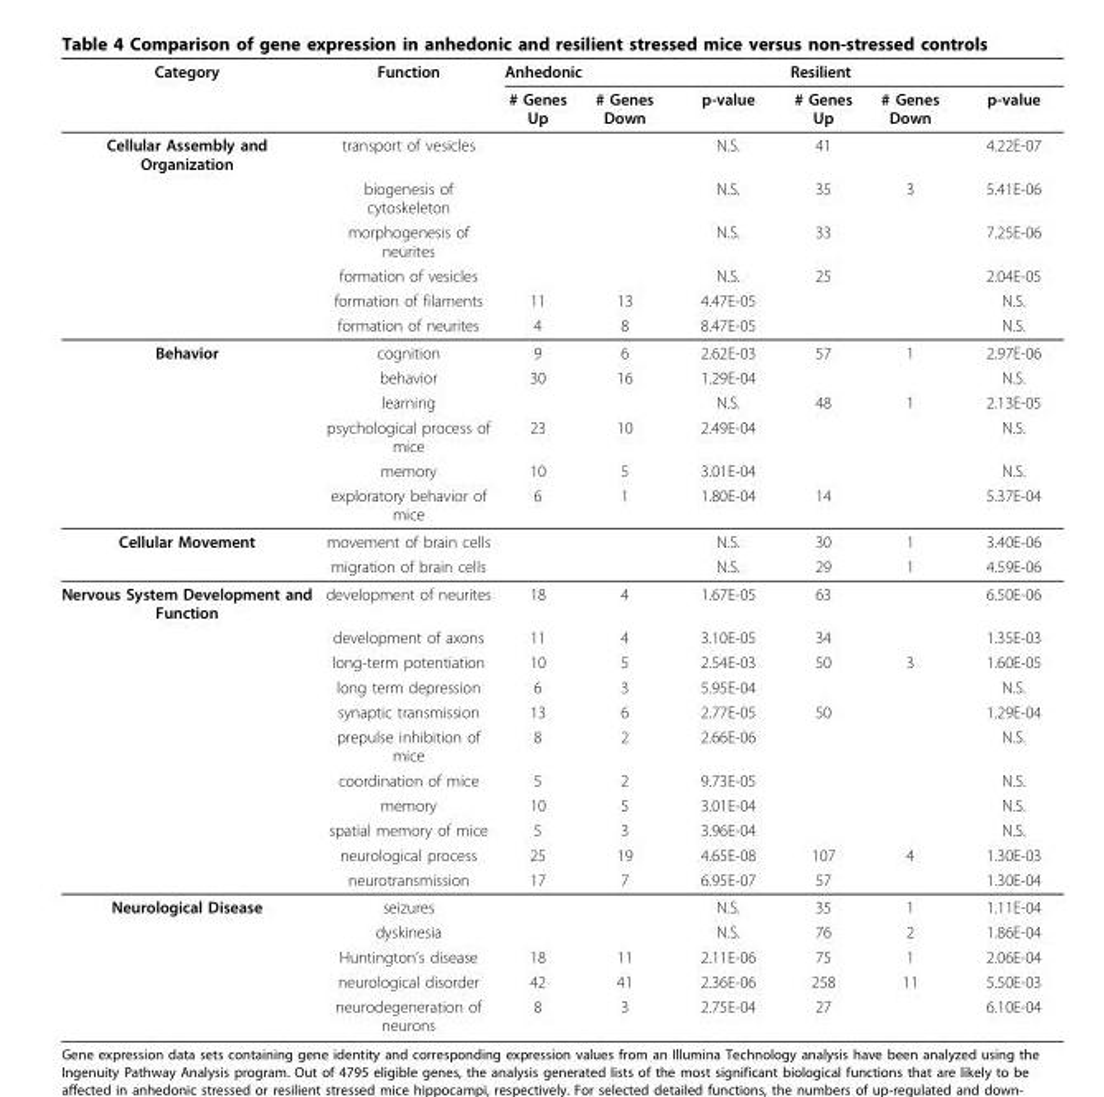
<table><thead><tr><td rowspan="2">Category</td><td rowspan="2">Function</td><td colspan="3">Anhedonic</td><td colspan="3">Resilient</td></tr><tr><td># Genes Up</td><td># Genes Down</td><td>p-value</td><td># Genes Up</td><td># Genes Down</td><td>p-value</td></tr></thead><tbody><tr><td rowspan="6">Cellular Assembly and Organization</td><td>transport of vesicles</td><td></td><td></td><td>N.S.</td><td>41</td><td></td><td>4.22E-07</td></tr><tr><td>biogenesis of cytoskeleton</td><td></td><td></td><td>N.S.</td><td>35</td><td>3</td><td>5.41E-06</td></tr><tr><td>morphogenesis of neurites</td><td></td><td></td><td>N.S.</td><td>33</td><td></td><td>7.25E-06</td></tr><tr><td>formation of vesicles</td><td></td><td></td><td>N.S.</td><td>25</td><td></td><td>2.04E-05</td></tr><tr><td>formation of filaments</td><td>11</td><td>13</td><td>4.47E-05</td><td></td><td></td><td>N.S.</td></tr><tr><td>formation of neurites</td><td>4</td><td>8</td><td>8.47E-05</td><td></td><td></td><td>N.S.</td></tr><tr><td rowspan="6">Behavior</td><td>cognition</td><td>9</td><td>6</td><td>2.62E-03</td><td>57</td><td>1</td><td>2.97E-06</td></tr><tr><td>behavior</td><td>30</td><td>16</td><td>1.29E-04</td><td></td><td></td><td>N.S.</td></tr><tr><td>learning</td><td></td><td></td><td>N.S.</td><td>48</td><td>1</td><td>2.13E-05</td></tr><tr><td>psychological process of mice</td><td>23</td><td>10</td><td>2.49E-04</td><td></td><td></td><td>N.S.</td></tr><tr><td>memory</td><td>10</td><td>5</td><td>3.01E-04</td><td></td><td></td><td>N.S.</td></tr><tr><td>exploratory behavior of mice</td><td>6</td><td>1</td><td>1.80E-04</td><td>14</td><td></td><td>5.37E-04</td></tr><tr><td rowspan="2">Cellular Movement</td><td>movement of brain cells</td><td></td><td></td><td>N.S.</td><td>30</td><td>1</td><td>3.40E-06</td></tr><tr><td>migration of brain cells</td><td></td><td></td><td>N.S.</td><td>29</td><td>1</td><td>4.59E-06</td></tr><tr><td rowspan="11">Nervous System Development and Function</td><td>development of neurites</td><td>18</td><td>4</td><td>1.67E-05</td><td>63</td><td></td><td>6.50E-06</td></tr><tr><td>development of axons</td><td>11</td><td>4</td><td>3.10E-05</td><td>34</td><td></td><td>1.35E-03</td></tr><tr><td>long-term potentiation</td><td>10</td><td>5</td><td>2.54E-03</td><td>50</td><td>3</td><td>1.60E-05</td></tr><tr><td>long term depression</td><td>6</td><td>3</td><td>5.95E-04</td><td></td><td></td><td>N.S.</td></tr><tr><td>synaptic transmission</td><td>13</td><td>6</td><td>2.77E-05</td><td>50</td><td></td><td>1.29E-04</td></tr><tr><td>prepulse inhibition of mice</td><td>8</td><td>2</td><td>2.66E-06</td><td></td><td></td><td>N.S.</td></tr><tr><td>coordination of mice</td><td>5</td><td>2</td><td>9.73E-05</td><td></td><td></td><td>N.S.</td></tr><tr><td>memory</td><td>10</td><td>5</td><td>3.01E-04</td><td></td><td></td><td>N.S.</td></tr><tr><td>spatial memory of mice</td><td>5</td><td>3</td><td>3.96E-04</td><td></td><td></td><td>N.S.</td></tr><tr><td>neurological process</td><td>25</td><td>19</td><td>4.65E-08</td><td>107</td><td>4</td><td>1.30E-03</td></tr><tr><td>neurotransmission</td><td>17</td><td>7</td><td>6.95E-07</td><td>57</td><td></td><td>1.30E-04</td></tr><tr><td rowspan="5">Neurological Disease</td><td>seizures</td><td></td><td></td><td>N.S.</td><td>35</td><td>1</td><td>1.11E-04</td></tr><tr><td>dyskinesia</td><td></td><td></td><td>N.S.</td><td>76</td><td>2</td><td>1.86E-04</td></tr><tr><td>Huntington’s disease</td><td>18</td><td>11</td><td>2.11E-06</td><td>75</td><td>1</td><td>2.06E-04</td></tr><tr><td>neurological disorder</td><td>42</td><td>41</td><td>2.36E-06</td><td>258</td><td>11</td><td>5.50E-03</td></tr><tr><td>neurodegeneration of neurons</td><td>8</td><td>3</td><td>2.75E-04</td><td>27</td><td></td><td>6.10E-04</td></tr></tbody></table>